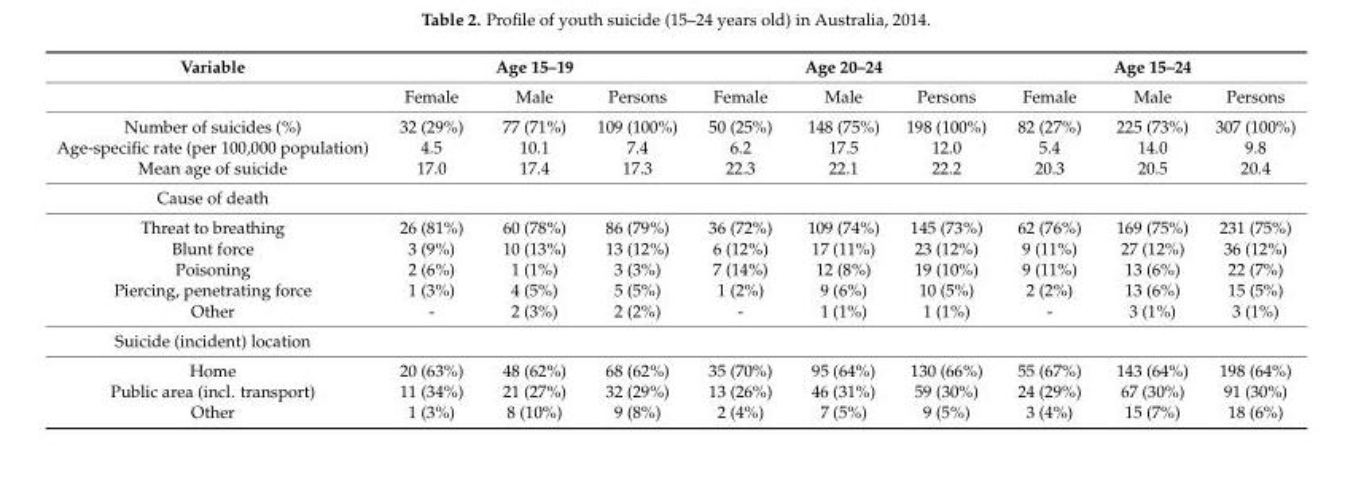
<table><thead><tr><td rowspan="2">Variable</td><td colspan="3">Age 15–19</td><td colspan="3">Age 20–24</td><td colspan="3">Age 15–24</td></tr><tr><td>Female</td><td>Male</td><td>Persons</td><td>Female</td><td>Male</td><td>Persons</td><td>Female</td><td>Male</td><td>Persons</td></tr></thead><tbody><tr><td>Number of suicides (%)</td><td>32 (29%)</td><td>77 (71%)</td><td>109 (100%)</td><td>50 (25%)</td><td>148 (75%)</td><td>198 (100%)</td><td>82 (27%)</td><td>225 (73%)</td><td>307 (100%)</td></tr><tr><td>Age-specific rate (per 100,000 population)</td><td>4.5</td><td>10.1</td><td>7.4</td><td>6.2</td><td>17.5</td><td>12.0</td><td>5.4</td><td>14.0</td><td>9.8</td></tr><tr><td>Mean age of suicide</td><td>17.0</td><td>17.4</td><td>17.3</td><td>22.3</td><td>22.1</td><td>22.2</td><td>20.3</td><td>20.5</td><td>20.4</td></tr><tr><td colspan="10">Cause of death</td></tr><tr><td>Threat to breathing</td><td>26 (81%)</td><td>60 (78%)</td><td>86 (79%)</td><td>36 (72%)</td><td>109 (74%)</td><td>145 (73%)</td><td>62 (76%)</td><td>169 (75%)</td><td>231 (75%)</td></tr><tr><td>Blunt force</td><td>3 (9%)</td><td>10 (13%)</td><td>13 (12%)</td><td>6 (12%)</td><td>17 (11%)</td><td>23 (12%)</td><td>9 (11%)</td><td>27 (12%)</td><td>36 (12%)</td></tr><tr><td>Poisoning</td><td>2 (6%)</td><td>1 (1%)</td><td>3 (3%)</td><td>7 (14%)</td><td>12 (8%)</td><td>19 (10%)</td><td>9 (11%)</td><td>13 (6%)</td><td>22 (7%)</td></tr><tr><td>Piercing, penetrating force</td><td>1 (3%)</td><td>4 (5%)</td><td>5 (5%)</td><td>1 (2%)</td><td>9 (6%)</td><td>10 (5%)</td><td>2 (2%)</td><td>13 (6%)</td><td>15 (5%)</td></tr><tr><td>Other</td><td>-</td><td>2 (3%)</td><td>2 (2%)</td><td>-</td><td>1 (1%)</td><td>1 (1%)</td><td>-</td><td>3 (1%)</td><td>3 (1%)</td></tr><tr><td colspan="10">Suicide (incident) location</td></tr><tr><td>Home</td><td>20 (63%)</td><td>48 (62%)</td><td>68 (62%)</td><td>35 (70%)</td><td>95 (64%)</td><td>130 (66%)</td><td>55 (67%)</td><td>143 (64%)</td><td>198 (64%)</td></tr><tr><td>Public area (incl. transport)</td><td>11 (34%)</td><td>21 (27%)</td><td>32 (29%)</td><td>13 (26%)</td><td>46 (31%)</td><td>59 (30%)</td><td>24 (29%)</td><td>67 (30%)</td><td>91 (30%)</td></tr><tr><td>Other</td><td>1 (3%)</td><td>8 (10%)</td><td>9 (8%)</td><td>2 (4%)</td><td>7 (5%)</td><td>9 (5%)</td><td>3 (4%)</td><td>15 (7%)</td><td>18 (6%)</td></tr></tbody></table>